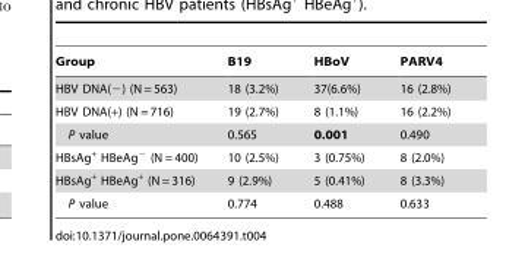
<table><thead><tr><td>Group</td><td>B19</td><td>HBoV</td><td>PARV4</td></tr></thead><tbody><tr><td>HBV DNA(−) (N = 563)</td><td>18 (3.2%)</td><td>37(6.6%)</td><td>16 (2.8%)</td></tr><tr><td>HBV DNA(+) (N = 716)</td><td>19 (2.7%)</td><td>8 (1.1%)</td><td>16 (2.2%)</td></tr><tr><td>P value</td><td>0.565</td><td>0.001</td><td>0.490</td></tr><tr><td>HBsAg<sup>+</sup> HBeAg<sup>−</sup> (N = 400)</td><td>10 (2.5%)</td><td>3 (0.75%)</td><td>8 (2.0%)</td></tr><tr><td>HBsAg<sup>+</sup> HBeAg<sup>+</sup> (N = 316)</td><td>9 (2.9%)</td><td>5 (0.41%)</td><td>8 (3.3%)</td></tr><tr><td>P value</td><td>0.774</td><td>0.488</td><td>0.633</td></tr></tbody></table>